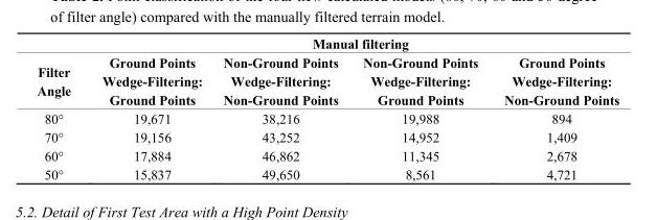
<table><thead><tr><td rowspan="2">Filter Angle</td><td colspan="4">Manual filtering</td></tr><tr><td>Ground Points Wedge-Filtering: Ground Points</td><td>Non-Ground Points Wedge-Filtering: Non-Ground Points</td><td>Non-Ground Points Wedge-Filtering: Ground Points</td><td>Ground Points Wedge-Filtering: Non-Ground Points</td></tr></thead><tbody><tr><td>80°</td><td>19,671</td><td>38,216</td><td>19,988</td><td>894</td></tr><tr><td>70°</td><td>19,156</td><td>43,252</td><td>14,952</td><td>1,409</td></tr><tr><td>60°</td><td>17,884</td><td>46,862</td><td>11,345</td><td>2,678</td></tr><tr><td>50°</td><td>15,837</td><td>49,650</td><td>8,561</td><td>4,721</td></tr></tbody></table>